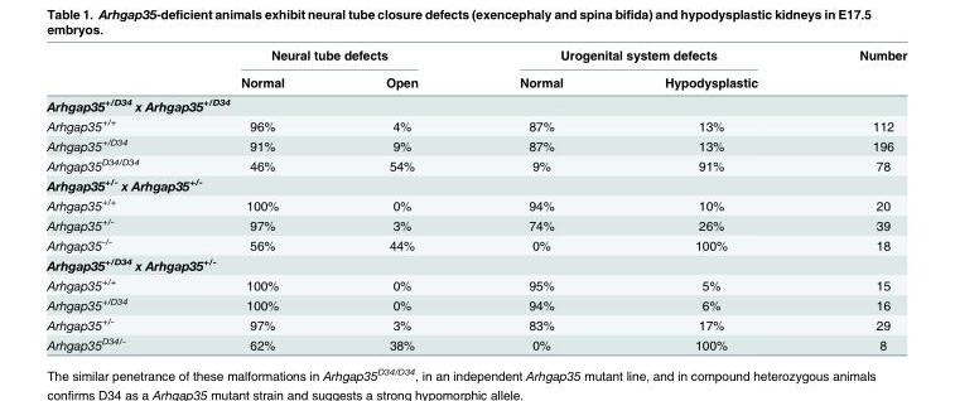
<table><thead><tr><td rowspan="2"></td><td colspan="2">Neural tube defects</td><td colspan="2">Urogenital system defects</td><td rowspan="2">Number</td></tr><tr><td>Normal</td><td>Open</td><td>Normal</td><td>Hypodysplastic</td></tr></thead><tbody><tr><td colspan="6">Arhgap35<sup>+/D34</sup> x Arhgap35<sup>+/D34</sup></td></tr><tr><td>Arhgap35<sup>+/+</sup></td><td>96%</td><td>4%</td><td>87%</td><td>13%</td><td>112</td></tr><tr><td>Arhgap35<sup>+/D34</sup></td><td>91%</td><td>9%</td><td>87%</td><td>13%</td><td>196</td></tr><tr><td>Arhgap35<sup>D34/D34</sup></td><td>46%</td><td>54%</td><td>9%</td><td>91%</td><td>78</td></tr><tr><td colspan="6">Arhgap35<sup>+/-</sup> x Arhgap35<sup>+/-</sup></td></tr><tr><td>Arhgap35<sup>+/+</sup></td><td>100%</td><td>0%</td><td>94%</td><td>10%</td><td>20</td></tr><tr><td>Arhgap35<sup>+/-</sup></td><td>97%</td><td>3%</td><td>74%</td><td>26%</td><td>39</td></tr><tr><td>Arhgap35<sup>-/-</sup></td><td>56%</td><td>44%</td><td>0%</td><td>100%</td><td>18</td></tr><tr><td colspan="6">Arhgap35<sup>+/D34</sup> x Arhgap35<sup>+/-</sup></td></tr><tr><td>Arhgap35<sup>+/+</sup></td><td>100%</td><td>0%</td><td>95%</td><td>5%</td><td>15</td></tr><tr><td>Arhgap35<sup>+/D34</sup></td><td>100%</td><td>0%</td><td>94%</td><td>6%</td><td>16</td></tr><tr><td>Arhgap35<sup>+/-</sup></td><td>97%</td><td>3%</td><td>83%</td><td>17%</td><td>29</td></tr><tr><td>Arhgap35<sup>D34/-</sup></td><td>62%</td><td>38%</td><td>0%</td><td>100%</td><td>8</td></tr></tbody></table>